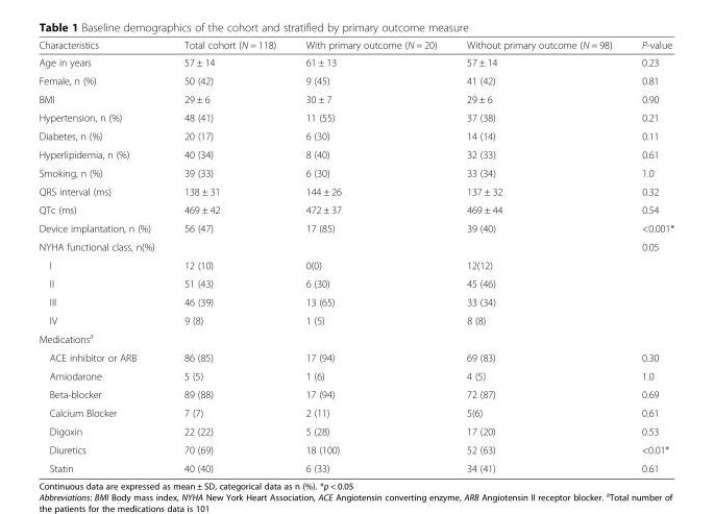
<table><thead><tr><td>Characteristics</td><td>Total cohort (N = 118)</td><td>With primary outcome (N = 20)</td><td>Without primary outcome (N = 98)</td><td>P-value</td></tr></thead><tbody><tr><td>Age in years</td><td>57 ± 14</td><td>61 ± 13</td><td>57 ± 14</td><td>0.23</td></tr><tr><td>Female, n (%)</td><td>50 (42)</td><td>9 (45)</td><td>41 (42)</td><td>0.81</td></tr><tr><td>BMI</td><td>29 ± 6</td><td>30 ± 7</td><td>29 ± 6</td><td>0.90</td></tr><tr><td>Hypertension, n (%)</td><td>48 (41)</td><td>11 (55)</td><td>37 (38)</td><td>0.21</td></tr><tr><td>Diabetes, n (%)</td><td>20 (17)</td><td>6 (30)</td><td>14 (14)</td><td>0.11</td></tr><tr><td>Hyperlipidemia, n (%)</td><td>40 (34)</td><td>8 (40)</td><td>32 (33)</td><td>0.61</td></tr><tr><td>Smoking, n (%)</td><td>39 (33)</td><td>6 (30)</td><td>33 (34)</td><td>1.0</td></tr><tr><td>QRS interval (ms)</td><td>138 ± 31</td><td>144 ± 26</td><td>137 ± 32</td><td>0.32</td></tr><tr><td>QTc (ms)</td><td>469 ± 42</td><td>472 ± 37</td><td>469 ± 44</td><td>0.54</td></tr><tr><td>Device implantation, n (%)</td><td>56 (47)</td><td>17 (85)</td><td>39 (40)</td><td>&lt;0.001*</td></tr><tr><td>NYHA functional class, n(%)</td><td></td><td></td><td></td><td>0.05</td></tr><tr><td>I</td><td>12 (10)</td><td>0(0)</td><td>12(12)</td><td></td></tr><tr><td>II</td><td>51 (43)</td><td>6 (30)</td><td>45 (46)</td><td></td></tr><tr><td>III</td><td>46 (39)</td><td>13 (65)</td><td>33 (34)</td><td></td></tr><tr><td>IV</td><td>9 (8)</td><td>1 (5)</td><td>8 (8)</td><td></td></tr><tr><td colspan="5">Medications<sup>a</sup></td></tr><tr><td>ACE inhibitor or ARB</td><td>86 (85)</td><td>17 (94)</td><td>69 (83)</td><td>0.30</td></tr><tr><td>Amiodarone</td><td>5 (5)</td><td>1 (6)</td><td>4 (5)</td><td>1.0</td></tr><tr><td>Beta-blocker</td><td>89 (88)</td><td>17 (94)</td><td>72 (87)</td><td>0.69</td></tr><tr><td>Calcium Blocker</td><td>7 (7)</td><td>2 (11)</td><td>5(6)</td><td>0.61</td></tr><tr><td>Digoxin</td><td>22 (22)</td><td>5 (28)</td><td>17 (20)</td><td>0.53</td></tr><tr><td>Diuretics</td><td>70 (69)</td><td>18 (100)</td><td>52 (63)</td><td>&lt;0.01*</td></tr><tr><td>Statin</td><td>40 (40)</td><td>6 (33)</td><td>34 (41)</td><td>0.61</td></tr></tbody></table>